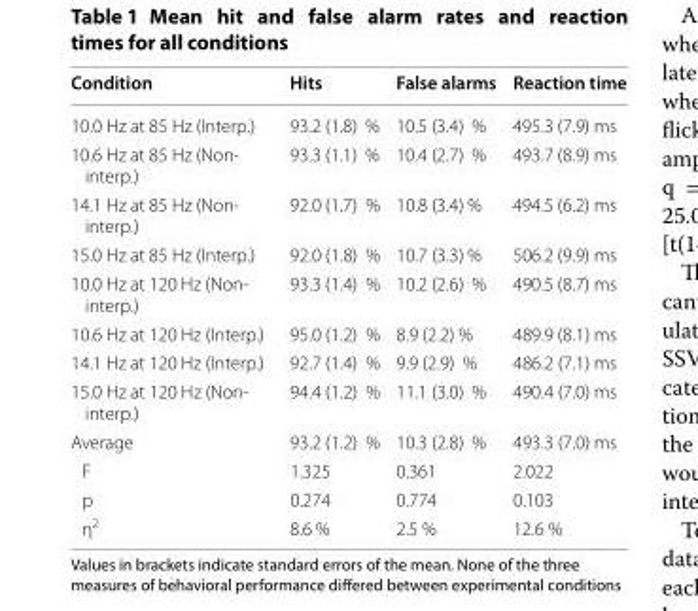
<table><thead><tr><td>Condition</td><td>Hits</td><td>False alarms</td><td>Reaction time</td></tr></thead><tbody><tr><td>10.0 Hz at 85 Hz (Interp.)</td><td>93.2 (1.8) %</td><td>10.5 (3.4) %</td><td>495.3 (7.9) ms</td></tr><tr><td>10.6 Hz at 85 Hz (Non- interp.)</td><td>93.3 (1.1) %</td><td>10.4 (2.7) %</td><td>493.7 (8.9) ms</td></tr><tr><td>14.1 Hz at 85 Hz (Non- interp.)</td><td>92.0 (1.7) %</td><td>10.8 (3.4) %</td><td>494.5 (6.2) ms</td></tr><tr><td>15.0 Hz at 85 Hz (Interp.)</td><td>92.0 (1.8) %</td><td>10.7 (3.3) %</td><td>506.2 (9.9) ms</td></tr><tr><td>10.0 Hz at 120 Hz (Non- interp.)</td><td>93.3 (1.4) %</td><td>10.2 (2.6) %</td><td>490.5 (8.7) ms</td></tr><tr><td>10.6 Hz at 120 Hz (Interp.)</td><td>95.0 (1.2) %</td><td>8.9 (2.2) %</td><td>489.9 (8.1) ms</td></tr><tr><td>14.1 Hz at 120 Hz (Interp.)</td><td>92.7 (1.4) %</td><td>9.9 (2.9) %</td><td>486.2 (7.1) ms</td></tr><tr><td>15.0 Hz at 120 Hz (Non- interp.)</td><td>94.4 (1.2) %</td><td>11.1 (3.0) %</td><td>490.4 (7.0) ms</td></tr><tr><td>Average</td><td>93.2 (1.2) %</td><td>10.3 (2.8) %</td><td>493.3 (7.0) ms</td></tr><tr><td>F</td><td>1.325</td><td>0.361</td><td>2.022</td></tr><tr><td>p</td><td>0.274</td><td>0.774</td><td>0.103</td></tr><tr><td>η<sup>2</sup></td><td>8.6 %</td><td>2.5 %</td><td>12.6 %</td></tr></tbody></table>